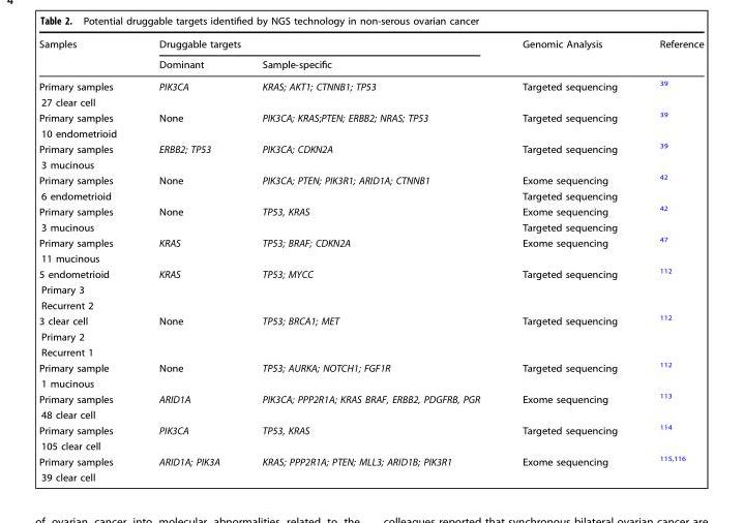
<table><thead><tr><td rowspan="2">Samples</td><td colspan="2">Druggable targets</td><td rowspan="2">Genomic Analysis</td><td rowspan="2">Reference</td></tr><tr><td>Dominant</td><td>Sample-specific</td></tr></thead><tbody><tr><td>Primary samples</td><td rowspan="2">PIK3CA</td><td rowspan="2">KRAS; AKT1; CTNNB1; TP53</td><td rowspan="2">Targeted sequencing</td><td rowspan="2"><sup>39</sup></td></tr><tr><td>27 clear cell</td></tr><tr><td>Primary samples</td><td rowspan="2">None</td><td rowspan="2">PIK3CA; KRAS;PTEN; ERBB2; NRAS; TP53</td><td rowspan="2">Targeted sequencing</td><td rowspan="2"><sup>39</sup></td></tr><tr><td>10 endometrioid</td></tr><tr><td>Primary samples</td><td rowspan="2">ERBB2; TP53</td><td rowspan="2">PIK3CA; CDKN2A</td><td rowspan="2">Targeted sequencing</td><td rowspan="2"><sup>39</sup></td></tr><tr><td>3 mucinous</td></tr><tr><td>Primary samples</td><td rowspan="2">None</td><td rowspan="2">PIK3CA; PTEN; PIK3R1; ARID1A; CTNNB1</td><td>Exome sequencing</td><td rowspan="2"><sup>42</sup></td></tr><tr><td>6 endometrioid</td><td>Targeted sequencing</td></tr><tr><td>Primary samples</td><td rowspan="2">None</td><td rowspan="2">TP53, KRAS</td><td>Exome sequencing</td><td rowspan="2"><sup>42</sup></td></tr><tr><td>3 mucinous</td><td>Targeted sequencing</td></tr><tr><td>Primary samples</td><td rowspan="2">KRAS</td><td rowspan="2">TP53; BRAF; CDKN2A</td><td rowspan="2">Exome sequencing</td><td rowspan="2"><sup>47</sup></td></tr><tr><td>11 mucinous</td></tr><tr><td>5 endometrioid</td><td rowspan="3">KRAS</td><td rowspan="3">TP53; MYCC</td><td rowspan="3">Targeted sequencing</td><td rowspan="3"><sup>112</sup></td></tr><tr><td>Primary 3</td></tr><tr><td>Recurrent 2</td></tr><tr><td>3 clear cell</td><td rowspan="3">None</td><td rowspan="3">TP53; BRCA1; MET</td><td rowspan="3">Targeted sequencing</td><td rowspan="3"><sup>112</sup></td></tr><tr><td>Primary 2</td></tr><tr><td>Recurrent 1</td></tr><tr><td>Primary sample</td><td rowspan="2">None</td><td rowspan="2">TP53; AURKA; NOTCH1; FGF1R</td><td rowspan="2">Targeted sequencing</td><td rowspan="2"><sup>112</sup></td></tr><tr><td>1 mucinous</td></tr><tr><td>Primary samples</td><td rowspan="2">ARID1A</td><td rowspan="2">PIK3CA; PPP2R1A; KRAS BRAF, ERBB2, PDGFRB, PGR</td><td rowspan="2">Exome sequencing</td><td rowspan="2"><sup>113</sup></td></tr><tr><td>48 clear cell</td></tr><tr><td>Primary samples</td><td rowspan="2">PIK3CA</td><td rowspan="2">TP53, KRAS</td><td rowspan="2">Targeted sequencing</td><td rowspan="2"><sup>114</sup></td></tr><tr><td>105 clear cell</td></tr><tr><td>Primary samples</td><td rowspan="2">ARID1A; PIK3A</td><td rowspan="2">KRAS; PPP2R1A; PTEN; MLL3; ARID1B; PIK3R1</td><td rowspan="2">Exome sequencing</td><td rowspan="2"><sup>115,116</sup></td></tr><tr><td>39 clear cell</td></tr></tbody></table>